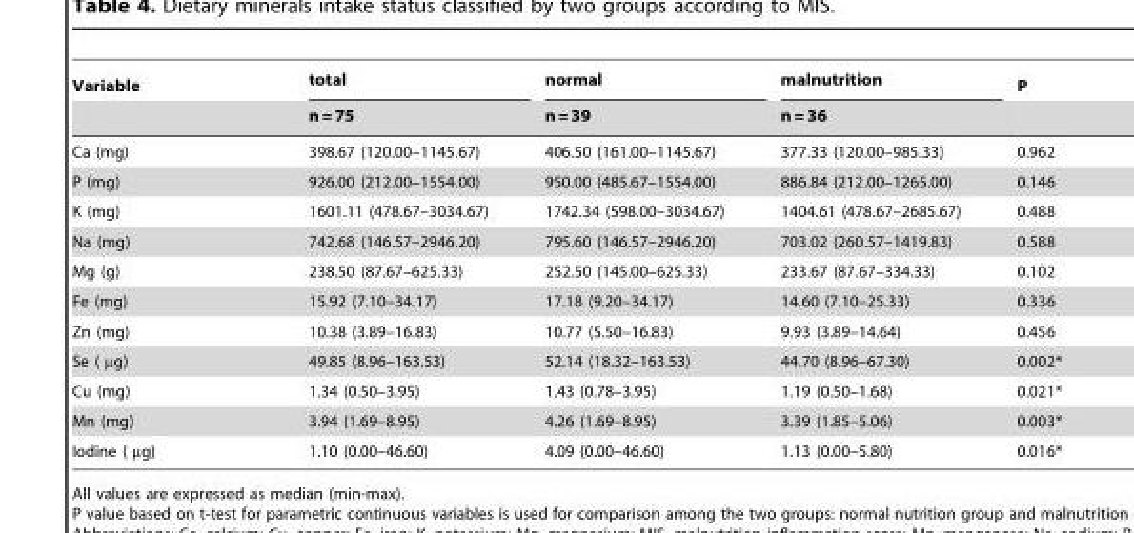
<table><thead><tr><td rowspan="2">Variable</td><td rowspan="2">total n = 75</td><td rowspan="2">normal n = 39</td><td rowspan="2">malnutrition n = 36</td><td rowspan="2">P</td></tr><tr></tr></thead><tbody><tr><td>Ca (mg)</td><td>398.67 (120.00–1145.67)</td><td>406.50 (161.00–1145.67)</td><td>377.33 (120.00–985.33)</td><td>0.962</td></tr><tr><td>P (mg)</td><td>926.00 (212.00–1554.00)</td><td>950.00 (485.67–1554.00)</td><td>886.84 (212.00–1265.00)</td><td>0.146</td></tr><tr><td>K (mg)</td><td>1601.11 (478.67–3034.67)</td><td>1742.34 (598.00–3034.67)</td><td>1404.61 (478.67–2685.67)</td><td>0.488</td></tr><tr><td>Na (mg)</td><td>742.68 (146.57–2946.20)</td><td>795.60 (146.57–2946.20)</td><td>703.02 (260.57–1419.83)</td><td>0.588</td></tr><tr><td>Mg (g)</td><td>238.50 (87.67–625.33)</td><td>252.50 (145.00–625.33)</td><td>233.67 (87.67–334.33)</td><td>0.102</td></tr><tr><td>Fe (mg)</td><td>15.92 (7.10–34.17)</td><td>17.18 (9.20–34.17)</td><td>14.60 (7.10–25.33)</td><td>0.336</td></tr><tr><td>Zn (mg)</td><td>10.38 (3.89–16.83)</td><td>10.77 (5.50–16.83)</td><td>9.93 (3.89–14.64)</td><td>0.456</td></tr><tr><td>Se ( µg)</td><td>49.85 (8.96–163.53)</td><td>52.14 (18.32–163.53)</td><td>44.70 (8.96–67.30)</td><td>0.002*</td></tr><tr><td>Cu (mg)</td><td>1.34 (0.50–3.95)</td><td>1.43 (0.78–3.95)</td><td>1.19 (0.50–1.68)</td><td>0.021*</td></tr><tr><td>Mn (mg)</td><td>3.94 (1.69–8.95)</td><td>4.26 (1.69–8.95)</td><td>3.39 (1.85–5.06)</td><td>0.003*</td></tr><tr><td>Iodine ( µg)</td><td>1.10 (0.00–46.60)</td><td>4.09 (0.00–46.60)</td><td>1.13 (0.00–5.80)</td><td>0.016*</td></tr></tbody></table>